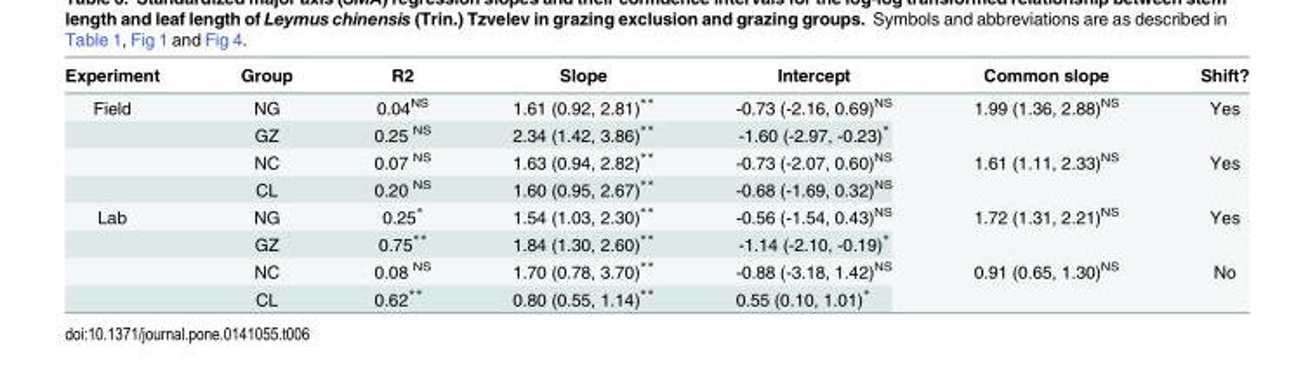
<table><thead><tr><td>Experiment</td><td>Group</td><td>R2</td><td>Slope</td><td>Intercept</td><td>Common slope</td><td>Shift?</td></tr></thead><tbody><tr><td rowspan="4">Field</td><td>NG</td><td>0.04<sup>NS</sup></td><td>1.61 (0.92, 2.81)**</td><td>-0.73 (-2.16, 0.69)<sup>NS</sup></td><td rowspan="2">1.99 (1.36, 2.88)<sup>NS</sup></td><td rowspan="2">Yes</td></tr><tr><td>GZ</td><td>0.25 <sup>NS</sup></td><td>2.34 (1.42, 3.86)**</td><td>-1.60 (-2.97, -0.23)*</td></tr><tr><td>NC</td><td>0.07 <sup>NS</sup></td><td>1.63 (0.94, 2.82)**</td><td>-0.73 (-2.07, 0.60)<sup>NS</sup></td><td rowspan="2">1.61 (1.11, 2.33)<sup>NS</sup></td><td rowspan="2">Yes</td></tr><tr><td>CL</td><td>0.20 <sup>NS</sup></td><td>1.60 (0.95, 2.67)**</td><td>-0.68 (-1.69, 0.32)<sup>NS</sup></td></tr><tr><td rowspan="4">Lab</td><td>NG</td><td>0.25*</td><td>1.54 (1.03, 2.30)**</td><td>-0.56 (-1.54, 0.43)<sup>NS</sup></td><td rowspan="2">1.72 (1.31, 2.21)<sup>NS</sup></td><td rowspan="2">Yes</td></tr><tr><td>GZ</td><td>0.75**</td><td>1.84 (1.30, 2.60)**</td><td>-1.14 (-2.10, -0.19)*</td></tr><tr><td>NC</td><td>0.08 <sup>NS</sup></td><td>1.70 (0.78, 3.70)**</td><td>-0.88 (-3.18, 1.42)<sup>NS</sup></td><td rowspan="2">0.91 (0.65, 1.30)<sup>NS</sup></td><td rowspan="2">No</td></tr><tr><td>CL</td><td>0.62**</td><td>0.80 (0.55, 1.14)**</td><td>0.55 (0.10, 1.01)*</td></tr></tbody></table>